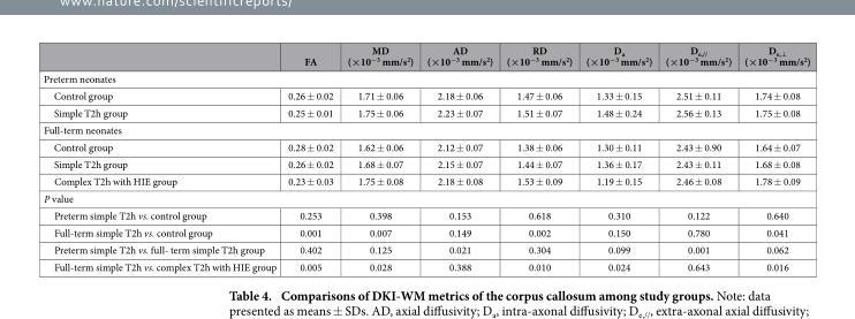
<table><thead><tr><td></td><td>FA</td><td>MD (×10<sup>−3</sup> mm/s<sup>2</sup>)</td><td>AD (×10<sup>−3</sup> mm/s<sup>2</sup>)</td><td>RD (×10<sup>−3</sup> mm/s<sup>2</sup>)</td><td>D<sub>a</sub> (×10<sup>−3</sup> mm/s<sup>2</sup>)</td><td>D<sub>e,//</sub> (×10<sup>−3</sup> mm/s<sup>2</sup>)</td><td>D<sub>e,⊥</sub> (×10<sup>−3</sup> mm/s<sup>2</sup>)</td></tr></thead><tbody><tr><td colspan="8">Preterm neonates</td></tr><tr><td>Control group</td><td>0.26 ± 0.02</td><td>1.71 ± 0.06</td><td>2.18 ± 0.06</td><td>1.47 ± 0.06</td><td>1.33 ± 0.15</td><td>2.51 ± 0.11</td><td>1.74 ± 0.08</td></tr><tr><td>Simple T2h group</td><td>0.25 ± 0.01</td><td>1.75 ± 0.06</td><td>2.23 ± 0.07</td><td>1.51 ± 0.07</td><td>1.48 ± 0.24</td><td>2.56 ± 0.13</td><td>1.75 ± 0.08</td></tr><tr><td colspan="8">Full-term neonates</td></tr><tr><td>Control group</td><td>0.28 ± 0.02</td><td>1.62 ± 0.06</td><td>2.12 ± 0.07</td><td>1.38 ± 0.06</td><td>1.30 ± 0.11</td><td>2.43 ± 0.90</td><td>1.64 ± 0.07</td></tr><tr><td>Simple T2h group</td><td>0.26 ± 0.02</td><td>1.68 ± 0.07</td><td>2.15 ± 0.07</td><td>1.44 ± 0.07</td><td>1.36 ± 0.17</td><td>2.43 ± 0.11</td><td>1.68 ± 0.08</td></tr><tr><td>Complex T2h with HIE group</td><td>0.23 ± 0.03</td><td>1.75 ± 0.08</td><td>2.18 ± 0.08</td><td>1.53 ± 0.09</td><td>1.19 ± 0.15</td><td>2.46 ± 0.08</td><td>1.78 ± 0.09</td></tr><tr><td colspan="8">P value</td></tr><tr><td>Preterm simple T2h vs. control group</td><td>0.253</td><td>0.398</td><td>0.153</td><td>0.618</td><td>0.310</td><td>0.122</td><td>0.640</td></tr><tr><td>Full-term simple T2h vs. control group</td><td>0.001</td><td>0.007</td><td>0.149</td><td>0.002</td><td>0.150</td><td>0.780</td><td>0.041</td></tr><tr><td>Preterm simple T2h vs. full- term simple T2h group</td><td>0.402</td><td>0.125</td><td>0.021</td><td>0.304</td><td>0.099</td><td>0.001</td><td>0.062</td></tr><tr><td>Full-term simple T2h vs. complex T2h with HIE group</td><td>0.005</td><td>0.028</td><td>0.388</td><td>0.010</td><td>0.024</td><td>0.643</td><td>0.016</td></tr></tbody></table>